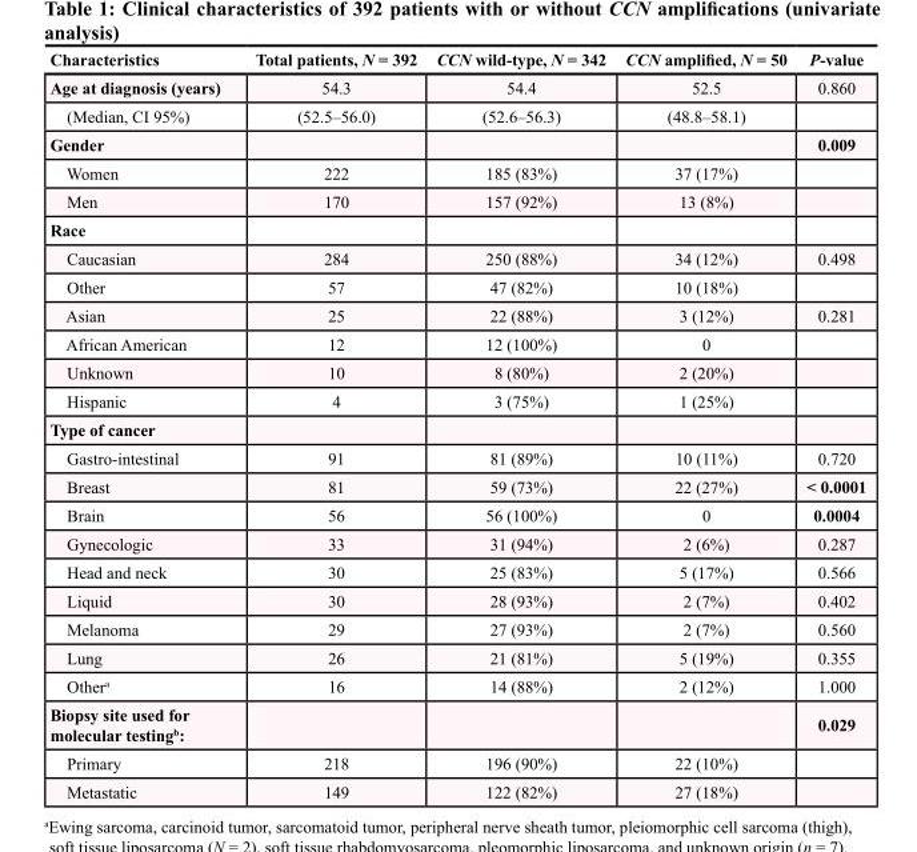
<table><thead><tr><td>Characteristics</td><td>Total patients, N = 392</td><td>CCN wild-type, N = 342</td><td>CCN amplified, N = 50</td><td>P-value</td></tr></thead><tbody><tr><td>Age at diagnosis (years)</td><td>54.3</td><td>54.4</td><td>52.5</td><td>0.860</td></tr><tr><td>(Median, CI 95%)</td><td>(52.5–56.0)</td><td>(52.6–56.3)</td><td>(48.8–58.1)</td><td></td></tr><tr><td>Gender</td><td></td><td></td><td></td><td>0.009</td></tr><tr><td>Women</td><td>222</td><td>185 (83%)</td><td>37 (17%)</td><td></td></tr><tr><td>Men</td><td>170</td><td>157 (92%)</td><td>13 (8%)</td><td></td></tr><tr><td colspan="5">Race</td></tr><tr><td>Caucasian</td><td>284</td><td>250 (88%)</td><td>34 (12%)</td><td>0.498</td></tr><tr><td>Other</td><td>57</td><td>47 (82%)</td><td>10 (18%)</td><td></td></tr><tr><td>Asian</td><td>25</td><td>22 (88%)</td><td>3 (12%)</td><td>0.281</td></tr><tr><td>African American</td><td>12</td><td>12 (100%)</td><td>0</td><td></td></tr><tr><td>Unknown</td><td>10</td><td>8 (80%)</td><td>2 (20%)</td><td></td></tr><tr><td>Hispanic</td><td>4</td><td>3 (75%)</td><td>1 (25%)</td><td></td></tr><tr><td colspan="5">Type of cancer</td></tr><tr><td>Gastro-intestinal</td><td>91</td><td>81 (89%)</td><td>10 (11%)</td><td>0.720</td></tr><tr><td>Breast</td><td>81</td><td>59 (73%)</td><td>22 (27%)</td><td>&lt; 0.0001</td></tr><tr><td>Brain</td><td>56</td><td>56 (100%)</td><td>0</td><td>0.0004</td></tr><tr><td>Gynecologic</td><td>33</td><td>31 (94%)</td><td>2 (6%)</td><td>0.287</td></tr><tr><td>Head and neck</td><td>30</td><td>25 (83%)</td><td>5 (17%)</td><td>0.566</td></tr><tr><td>Liquid</td><td>30</td><td>28 (93%)</td><td>2 (7%)</td><td>0.402</td></tr><tr><td>Melanoma</td><td>29</td><td>27 (93%)</td><td>2 (7%)</td><td>0.560</td></tr><tr><td>Lung</td><td>26</td><td>21 (81%)</td><td>5 (19%)</td><td>0.355</td></tr><tr><td>Other<sup>a</sup></td><td>16</td><td>14 (88%)</td><td>2 (12%)</td><td>1.000</td></tr><tr><td>Biopsy site used for molecular testing<sup>b</sup>:</td><td></td><td></td><td></td><td>0.029</td></tr><tr><td>Primary</td><td>218</td><td>196 (90%)</td><td>22 (10%)</td><td></td></tr><tr><td>Metastatic</td><td>149</td><td>122 (82%)</td><td>27 (18%)</td><td></td></tr></tbody></table>